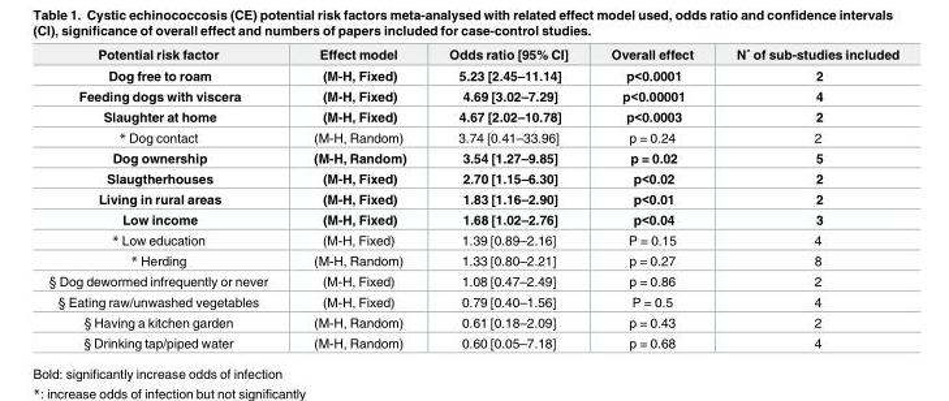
<table><thead><tr><td>Potential risk factor</td><td>Effect model</td><td>Odds ratio [95% CI]</td><td>Overall effect</td><td>N˚ of sub-studies included</td></tr></thead><tbody><tr><td>Dog free to roam</td><td>(M-H, Fixed)</td><td>5.23 [2.45–11.14]</td><td>p&lt;0.0001</td><td>2</td></tr><tr><td>Feeding dogs with viscera</td><td>(M-H, Fixed)</td><td>4.69 [3.02–7.29]</td><td>p&lt;0.00001</td><td>4</td></tr><tr><td>Slaughter at home</td><td>(M-H, Fixed)</td><td>4.67 [2.02–10.78]</td><td>p&lt;0.0003</td><td>2</td></tr><tr><td>* Dog contact</td><td>(M-H, Random)</td><td>3.74 [0.41–33.96]</td><td>p = 0.24</td><td>2</td></tr><tr><td>Dog ownership</td><td>(M-H, Random)</td><td>3.54 [1.27–9.85]</td><td>p = 0.02</td><td>5</td></tr><tr><td>Slaugtherhouses</td><td>(M-H, Fixed)</td><td>2.70 [1.15–6.30]</td><td>p&lt;0.02</td><td>2</td></tr><tr><td>Living in rural areas</td><td>(M-H, Fixed)</td><td>1.83 [1.16–2.90]</td><td>p&lt;0.01</td><td>2</td></tr><tr><td>Low income</td><td>(M-H, Fixed)</td><td>1.68 [1.02–2.76]</td><td>p&lt;0.04</td><td>3</td></tr><tr><td>* Low education</td><td>(M-H, Fixed)</td><td>1.39 [0.89–2.16]</td><td>P = 0.15</td><td>4</td></tr><tr><td>* Herding</td><td>(M-H, Random)</td><td>1.33 [0.80–2.21]</td><td>p = 0.27</td><td>8</td></tr><tr><td>§ Dog dewormed infrequently or never</td><td>(M-H, Fixed)</td><td>1.08 [0.47–2.49]</td><td>p = 0.86</td><td>2</td></tr><tr><td>§ Eating raw/unwashed vegetables</td><td>(M-H, Fixed)</td><td>0.79 [0.40–1.56]</td><td>P = 0.5</td><td>4</td></tr><tr><td>§ Having a kitchen garden</td><td>(M-H, Random)</td><td>0.61 [0.18–2.09]</td><td>p = 0.43</td><td>2</td></tr><tr><td>§ Drinking tap/piped water</td><td>(M-H, Random)</td><td>0.60 [0.05–7.18]</td><td>p = 0.68</td><td>4</td></tr></tbody></table>